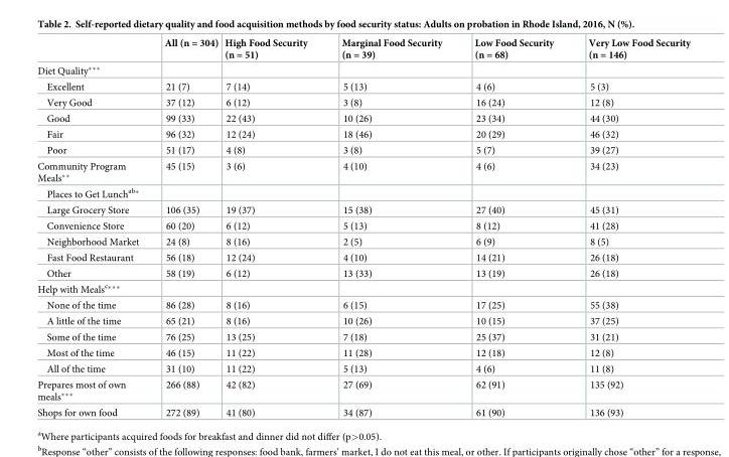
<table><thead><tr><td></td><td>All (n = 304)</td><td>High Food Security (n = 51)</td><td>Marginal Food Security (n = 39)</td><td>Low Food Security (n = 68)</td><td>Very Low Food Security (n = 146)</td></tr></thead><tbody><tr><td colspan="6">Diet Quality***</td></tr><tr><td>Excellent</td><td>21 (7)</td><td>7 (14)</td><td>5 (13)</td><td>4 (6)</td><td>5 (3)</td></tr><tr><td>Very Good</td><td>37 (12)</td><td>6 (12)</td><td>3 (8)</td><td>16 (24)</td><td>12 (8)</td></tr><tr><td>Good</td><td>99 (33)</td><td>22 (43)</td><td>10 (26)</td><td>23 (34)</td><td>44 (30)</td></tr><tr><td>Fair</td><td>96 (32)</td><td>12 (24)</td><td>18 (46)</td><td>20 (29)</td><td>46 (32)</td></tr><tr><td>Poor</td><td>51 (17)</td><td>4 (8)</td><td>3 (8)</td><td>5 (7)</td><td>39 (27)</td></tr><tr><td>Community Program Meals**</td><td>45 (15)</td><td>3 (6)</td><td>4 (10)</td><td>4 (6)</td><td>34 (23)</td></tr><tr><td colspan="6">Places to Get Lunch<sup>ab</sup>*</td></tr><tr><td>Large Grocery Store</td><td>106 (35)</td><td>19 (37)</td><td>15 (38)</td><td>27 (40)</td><td>45 (31)</td></tr><tr><td>Convenience Store</td><td>60 (20)</td><td>6 (12)</td><td>5 (13)</td><td>8 (12)</td><td>41 (28)</td></tr><tr><td>Neighborhood Market</td><td>24 (8)</td><td>8 (16)</td><td>2 (5)</td><td>6 (9)</td><td>8 (5)</td></tr><tr><td>Fast Food Restaurant</td><td>56 (18)</td><td>12 (24)</td><td>4 (10)</td><td>14 (21)</td><td>26 (18)</td></tr><tr><td>Other</td><td>58 (19)</td><td>6 (12)</td><td>13 (33)</td><td>13 (19)</td><td>26 (18)</td></tr><tr><td colspan="6">Help with Meals<sup>c</sup>***</td></tr><tr><td>None of the time</td><td>86 (28)</td><td>8 (16)</td><td>6 (15)</td><td>17 (25)</td><td>55 (38)</td></tr><tr><td>A little of the time</td><td>65 (21)</td><td>8 (16)</td><td>10 (26)</td><td>10 (15)</td><td>37 (25)</td></tr><tr><td>Some of the time</td><td>76 (25)</td><td>13 (25)</td><td>7 (18)</td><td>25 (37)</td><td>31 (21)</td></tr><tr><td>Most of the time</td><td>46 (15)</td><td>11 (22)</td><td>11 (28)</td><td>12 (18)</td><td>12 (8)</td></tr><tr><td>All of the time</td><td>31 (10)</td><td>11 (22)</td><td>5 (13)</td><td>4 (6)</td><td>11 (8)</td></tr><tr><td>Prepares most of own meals***</td><td>266 (88)</td><td>42 (82)</td><td>27 (69)</td><td>62 (91)</td><td>135 (92)</td></tr><tr><td>Shops for own food</td><td>272 (89)</td><td>41 (80)</td><td>34 (87)</td><td>61 (90)</td><td>136 (93)</td></tr></tbody></table>